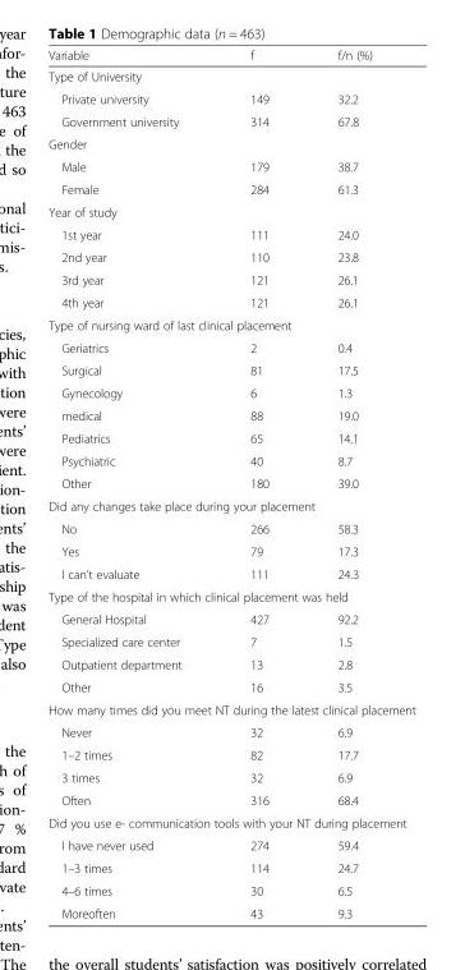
<table><thead><tr><td>Variable</td><td>f</td><td>f/n (%)</td></tr></thead><tbody><tr><td colspan="3">Type of University</td></tr><tr><td>Private university</td><td>149</td><td>32.2</td></tr><tr><td>Government university</td><td>314</td><td>67.8</td></tr><tr><td colspan="3">Gender</td></tr><tr><td>Male</td><td>179</td><td>38.7</td></tr><tr><td>Female</td><td>284</td><td>61.3</td></tr><tr><td colspan="3">Year of study</td></tr><tr><td>1st year</td><td>111</td><td>24.0</td></tr><tr><td>2nd year</td><td>110</td><td>23.8</td></tr><tr><td>3rd year</td><td>121</td><td>26.1</td></tr><tr><td>4th year</td><td>121</td><td>26.1</td></tr><tr><td colspan="3">Type of nursing ward of last clinical placement</td></tr><tr><td>Geriatrics</td><td>2</td><td>0.4</td></tr><tr><td>Surgical</td><td>81</td><td>17.5</td></tr><tr><td>Gynecology</td><td>6</td><td>1.3</td></tr><tr><td>medical</td><td>88</td><td>19.0</td></tr><tr><td>Pediatrics</td><td>65</td><td>14.1</td></tr><tr><td>Psychiatric</td><td>40</td><td>8.7</td></tr><tr><td>Other</td><td>180</td><td>39.0</td></tr><tr><td colspan="3">Did any changes take place during your placement</td></tr><tr><td>No</td><td>266</td><td>58.3</td></tr><tr><td>Yes</td><td>79</td><td>17.3</td></tr><tr><td>I can’t evaluate</td><td>111</td><td>24.3</td></tr><tr><td colspan="3">Type of the hospital in which clinical placement was held</td></tr><tr><td>General Hospital</td><td>427</td><td>92.2</td></tr><tr><td>Specialized care center</td><td>7</td><td>1.5</td></tr><tr><td>Outpatient department</td><td>13</td><td>2.8</td></tr><tr><td>Other</td><td>16</td><td>3.5</td></tr><tr><td colspan="3">How many times did you meet NT during the latest clinical placement</td></tr><tr><td>Never</td><td>32</td><td>6.9</td></tr><tr><td>1–2 times</td><td>82</td><td>17.7</td></tr><tr><td>3 times</td><td>32</td><td>6.9</td></tr><tr><td>Often</td><td>316</td><td>68.4</td></tr><tr><td colspan="3">Did you use e- communication tools with your NT during placement</td></tr><tr><td>I have never used</td><td>274</td><td>59.4</td></tr><tr><td>1–3 times</td><td>114</td><td>24.7</td></tr><tr><td>4–6 times</td><td>30</td><td>6.5</td></tr><tr><td>Moreoften</td><td>43</td><td>9.3</td></tr></tbody></table>